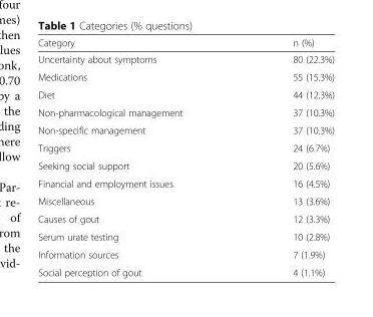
<table><thead><tr><td>Category</td><td>n (%)</td></tr></thead><tbody><tr><td>Uncertainty about symptoms</td><td>80 (22.3%)</td></tr><tr><td>Medications</td><td>55 (15.3%)</td></tr><tr><td>Diet</td><td>44 (12.3%)</td></tr><tr><td>Non-pharmacological management</td><td>37 (10.3%)</td></tr><tr><td>Non-specific management</td><td>37 (10.3%)</td></tr><tr><td>Triggers</td><td>24 (6.7%)</td></tr><tr><td>Seeking social support</td><td>20 (5.6%)</td></tr><tr><td>Financial and employment issues</td><td>16 (4.5%)</td></tr><tr><td>Miscellaneous</td><td>13 (3.6%)</td></tr><tr><td>Causes of gout</td><td>12 (3.3%)</td></tr><tr><td>Serum urate testing</td><td>10 (2.8%)</td></tr><tr><td>Information sources</td><td>7 (1.9%)</td></tr><tr><td>Social perception of gout</td><td>4 (1.1%)</td></tr></tbody></table>